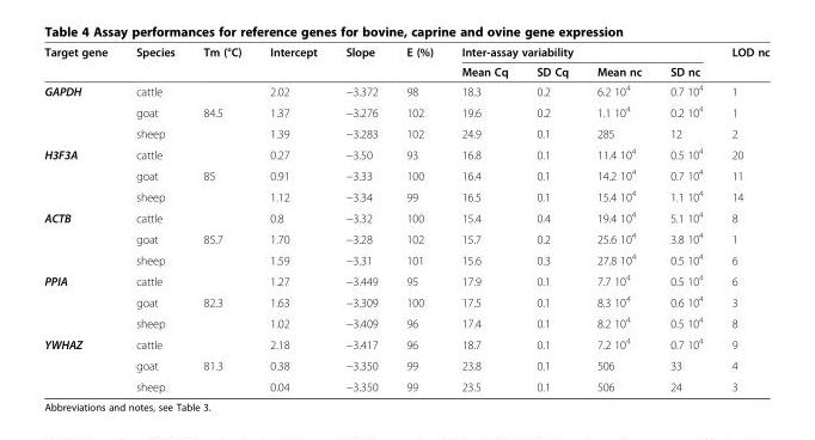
<table><thead><tr><td rowspan="2">Target gene</td><td rowspan="2">Species</td><td rowspan="2">Tm (°C)</td><td rowspan="2">Intercept</td><td rowspan="2">Slope</td><td rowspan="2">E (%)</td><td colspan="4">Inter-assay variability</td><td rowspan="2">LOD nc</td></tr><tr><td>Mean Cq</td><td>SD Cq</td><td>Mean nc</td><td>SD nc</td></tr></thead><tbody><tr><td rowspan="3">GAPDH</td><td>cattle</td><td rowspan="3">84.5</td><td>2.02</td><td>−3.372</td><td>98</td><td>18.3</td><td>0.2</td><td>6.2 10<sup>4</sup></td><td>0.7 10<sup>4</sup></td><td>1</td></tr><tr><td>goat</td><td>1.37</td><td>−3.276</td><td>102</td><td>19.6</td><td>0.2</td><td>1.1 10<sup>4</sup></td><td>0.2 10<sup>4</sup></td><td>1</td></tr><tr><td>sheep</td><td>1.39</td><td>−3.283</td><td>102</td><td>24.9</td><td>0.1</td><td>285</td><td>12</td><td>2</td></tr><tr><td rowspan="3">H3F3A</td><td>cattle</td><td rowspan="3">85</td><td>0.27</td><td>−3.50</td><td>93</td><td>16.8</td><td>0.1</td><td>11.4 10<sup>4</sup></td><td>0.5 10<sup>4</sup></td><td>20</td></tr><tr><td>goat</td><td>0.91</td><td>−3.33</td><td>100</td><td>16.4</td><td>0.1</td><td>14.2 10<sup>4</sup></td><td>0.7 10<sup>4</sup></td><td>11</td></tr><tr><td>sheep</td><td>1.12</td><td>−3.34</td><td>99</td><td>16.5</td><td>0.1</td><td>15.4 10<sup>4</sup></td><td>1.1 10<sup>4</sup></td><td>14</td></tr><tr><td rowspan="3">ACTB</td><td>cattle</td><td rowspan="3">85.7</td><td>0.8</td><td>−3.32</td><td>100</td><td>15.4</td><td>0.4</td><td>19.4 10<sup>4</sup></td><td>5.1 10<sup>4</sup></td><td>8</td></tr><tr><td>goat</td><td>1.70</td><td>−3.28</td><td>102</td><td>15.7</td><td>0.2</td><td>25.6 10<sup>4</sup></td><td>3.8 10<sup>4</sup></td><td>1</td></tr><tr><td>sheep</td><td>1.59</td><td>−3.31</td><td>101</td><td>15.6</td><td>0.3</td><td>27.8 10<sup>4</sup></td><td>0.5 10<sup>4</sup></td><td>6</td></tr><tr><td rowspan="3">PPIA</td><td>cattle</td><td rowspan="3">82.3</td><td>1.27</td><td>−3.449</td><td>95</td><td>17.9</td><td>0.1</td><td>7.7 10<sup>4</sup></td><td>0.5 10<sup>4</sup></td><td>6</td></tr><tr><td>goat</td><td>1.63</td><td>−3.309</td><td>100</td><td>17.5</td><td>0.1</td><td>8.3 10<sup>4</sup></td><td>0.6 10<sup>4</sup></td><td>3</td></tr><tr><td>sheep</td><td>1.02</td><td>−3.409</td><td>96</td><td>17.4</td><td>0.1</td><td>8.2 10<sup>4</sup></td><td>0.5 10<sup>4</sup></td><td>8</td></tr><tr><td rowspan="3">YWHAZ</td><td>cattle</td><td rowspan="3">81.3</td><td>2.18</td><td>−3.417</td><td>96</td><td>18.7</td><td>0.1</td><td>7.2 10<sup>4</sup></td><td>0.7 10<sup>4</sup></td><td>9</td></tr><tr><td>goat</td><td>0.38</td><td>−3.350</td><td>99</td><td>23.8</td><td>0.1</td><td>506</td><td>33</td><td>4</td></tr><tr><td>sheep</td><td>0.04</td><td>−3.350</td><td>99</td><td>23.5</td><td>0.1</td><td>506</td><td>24</td><td>3</td></tr></tbody></table>